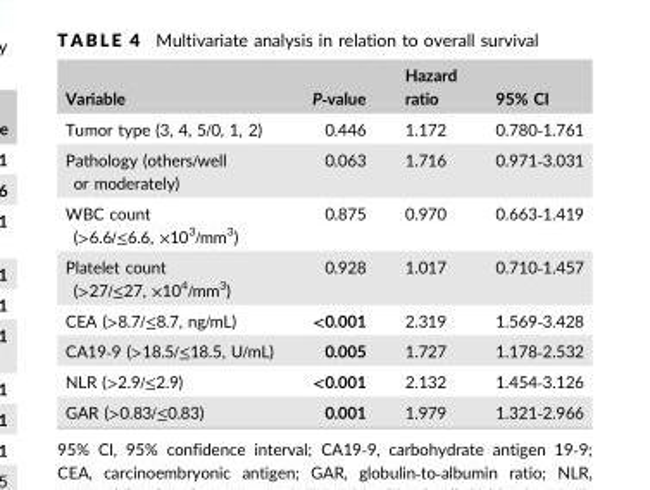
<table><thead><tr><td>Variable</td><td>P‐value</td><td>Hazard ratio</td><td>95% CI</td></tr></thead><tbody><tr><td>Tumor type (3, 4, 5/0, 1, 2)</td><td>0.446</td><td>1.172</td><td>0.780‐1.761</td></tr><tr><td>Pathology (others/well or moderately)</td><td>0.063</td><td>1.716</td><td>0.971‐3.031</td></tr><tr><td>WBC count (&gt;6.6/≤6.6, ×10<sup>3</sup>/mm<sup>3</sup>)</td><td>0.875</td><td>0.970</td><td>0.663‐1.419</td></tr><tr><td>Platelet count (&gt;27/≤27, ×10<sup>4</sup>/mm<sup>3</sup>)</td><td>0.928</td><td>1.017</td><td>0.710‐1.457</td></tr><tr><td>CEA (&gt;8.7/≤8.7, ng/mL)</td><td>&lt;0.001</td><td>2.319</td><td>1.569‐3.428</td></tr><tr><td>CA19‐9 (&gt;18.5/≤18.5, U/mL)</td><td>0.005</td><td>1.727</td><td>1.178‐2.532</td></tr><tr><td>NLR (&gt;2.9/≤2.9)</td><td>&lt;0.001</td><td>2.132</td><td>1.454‐3.126</td></tr><tr><td>GAR (&gt;0.83/≤0.83)</td><td>0.001</td><td>1.979</td><td>1.321‐2.966</td></tr></tbody></table>